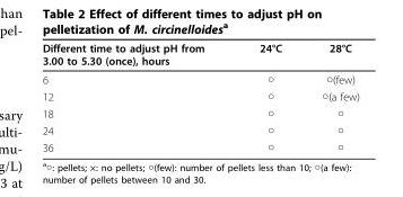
<table><thead><tr><td>Different time to adjust pH from 3.00 to 5.30 (once), hours</td><td>24°C</td><td>28°C</td></tr></thead><tbody><tr><td>6</td><td>○</td><td>○(few)</td></tr><tr><td>12</td><td>○</td><td>○(a few)</td></tr><tr><td>18</td><td>○</td><td>○</td></tr><tr><td>24</td><td>○</td><td>○</td></tr><tr><td>36</td><td>○</td><td>○</td></tr></tbody></table>